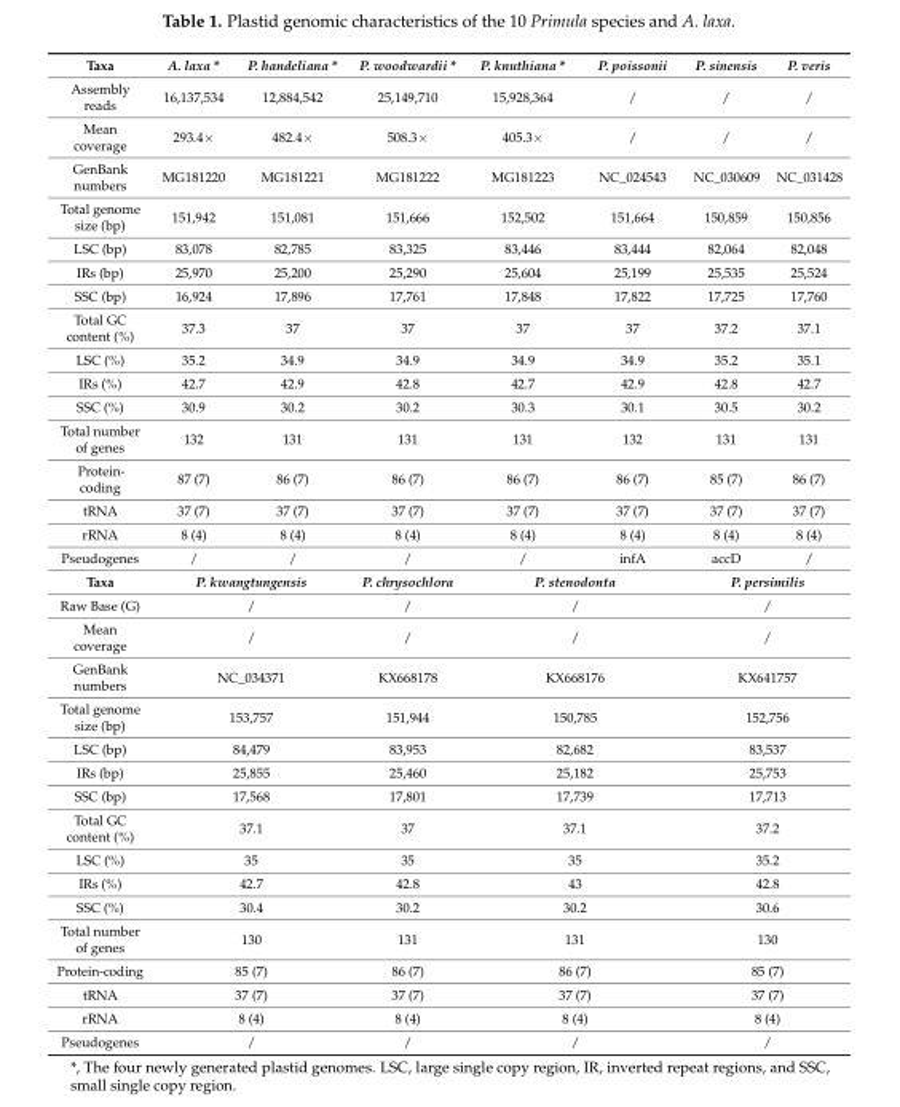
<table><tbody><tr><td>Taxa</td><td>A. laxa *</td><td>P. handeliana *</td><td>P. woodwardii *</td><td>P. knuthiana *</td><td>P. poissonii</td><td>P. sinensis</td><td>P. veris</td></tr><tr><td>Assembly reads</td><td>16,137,534</td><td>12,884,542</td><td>25,149,710</td><td>15,928,364</td><td>/</td><td>/</td><td>/</td></tr><tr><td>Mean coverage</td><td>293.4×</td><td>482.4×</td><td>508.3×</td><td>405.3×</td><td>/</td><td>/</td><td>/</td></tr><tr><td>GenBank numbers</td><td>MG181220</td><td>MG181221</td><td>MG181222</td><td>MG181223</td><td>NC_024543</td><td>NC_030609</td><td>NC_031428</td></tr><tr><td>Total genome size (bp)</td><td>151,942</td><td>151,081</td><td>151,666</td><td>152,502</td><td>151,664</td><td>150,859</td><td>150,856</td></tr><tr><td>LSC (bp)</td><td>83,078</td><td>82,785</td><td>83,325</td><td>83,446</td><td>83,444</td><td>82,064</td><td>82,048</td></tr><tr><td>IRs (bp)</td><td>25,970</td><td>25,200</td><td>25,290</td><td>25,604</td><td>25,199</td><td>25,535</td><td>25,524</td></tr><tr><td>SSC (bp)</td><td>16,924</td><td>17,896</td><td>17,761</td><td>17,848</td><td>17,822</td><td>17,725</td><td>17,760</td></tr><tr><td>Total GC content (%)</td><td>37.3</td><td>37</td><td>37</td><td>37</td><td>37</td><td>37.2</td><td>37.1</td></tr><tr><td>LSC (%)</td><td>35.2</td><td>34.9</td><td>34.9</td><td>34.9</td><td>34.9</td><td>35.2</td><td>35.1</td></tr><tr><td>IRs (%)</td><td>42.7</td><td>42.9</td><td>42.8</td><td>42.7</td><td>42.9</td><td>42.8</td><td>42.7</td></tr><tr><td>SSC (%)</td><td>30.9</td><td>30.2</td><td>30.2</td><td>30.3</td><td>30.1</td><td>30.5</td><td>30.2</td></tr><tr><td>Total number of genes</td><td>132</td><td>131</td><td>131</td><td>131</td><td>132</td><td>131</td><td>131</td></tr><tr><td>Protein- coding</td><td>87 (7)</td><td>86 (7)</td><td>86 (7)</td><td>86 (7)</td><td>86 (7)</td><td>85 (7)</td><td>86 (7)</td></tr><tr><td>tRNA</td><td>37 (7)</td><td>37 (7)</td><td>37 (7)</td><td>37 (7)</td><td>37 (7)</td><td>37 (7)</td><td>37 (7)</td></tr><tr><td>rRNA</td><td>8 (4)</td><td>8 (4)</td><td>8 (4)</td><td>8 (4)</td><td>8 (4)</td><td>8 (4)</td><td>8 (4)</td></tr><tr><td>Pseudogenes</td><td>/</td><td>/</td><td>/</td><td>/</td><td>infA</td><td>accD</td><td>/</td></tr><tr><td>Taxa</td><td colspan="2">P. kwangtungensis</td><td>P. chrysochlora</td><td colspan="2">P. stenodonta</td><td colspan="2">P. persimilis</td></tr><tr><td>Raw Base (G)</td><td colspan="2">/</td><td>/</td><td colspan="2">/</td><td colspan="2">/</td></tr><tr><td>Mean coverage</td><td colspan="2">/</td><td>/</td><td colspan="2">/</td><td colspan="2">/</td></tr><tr><td>GenBank numbers</td><td colspan="2">NC_034371</td><td>KX668178</td><td colspan="2">KX668176</td><td colspan="2">KX641757</td></tr><tr><td>Total genome size (bp)</td><td colspan="2">153,757</td><td>151,944</td><td colspan="2">150,785</td><td colspan="2">152,756</td></tr><tr><td>LSC (bp)</td><td colspan="2">84,479</td><td>83,953</td><td colspan="2">82,682</td><td colspan="2">83,537</td></tr><tr><td>IRs (bp)</td><td colspan="2">25,855</td><td>25,460</td><td colspan="2">25,182</td><td colspan="2">25,753</td></tr><tr><td>SSC (bp)</td><td colspan="2">17,568</td><td>17,801</td><td colspan="2">17,739</td><td colspan="2">17,713</td></tr><tr><td>Total GC content (%)</td><td colspan="2">37.1</td><td>37</td><td colspan="2">37.1</td><td colspan="2">37.2</td></tr><tr><td>LSC (%)</td><td colspan="2">35</td><td>35</td><td colspan="2">35</td><td colspan="2">35.2</td></tr><tr><td>IRs (%)</td><td colspan="2">42.7</td><td>42.8</td><td colspan="2">43</td><td colspan="2">42.8</td></tr><tr><td>SSC (%)</td><td colspan="2">30.4</td><td>30.2</td><td colspan="2">30.2</td><td colspan="2">30.6</td></tr><tr><td>Total number of genes</td><td colspan="2">130</td><td>131</td><td colspan="2">131</td><td colspan="2">130</td></tr><tr><td>Protein-coding</td><td colspan="2">85 (7)</td><td>86 (7)</td><td colspan="2">86 (7)</td><td colspan="2">85 (7)</td></tr><tr><td>tRNA</td><td colspan="2">37 (7)</td><td>37 (7)</td><td colspan="2">37 (7)</td><td colspan="2">37 (7)</td></tr><tr><td>rRNA</td><td colspan="2">8 (4)</td><td>8 (4)</td><td colspan="2">8 (4)</td><td colspan="2">8 (4)</td></tr><tr><td>Pseudogenes</td><td colspan="2">/</td><td>/</td><td colspan="2">/</td><td colspan="2">/</td></tr></tbody></table>